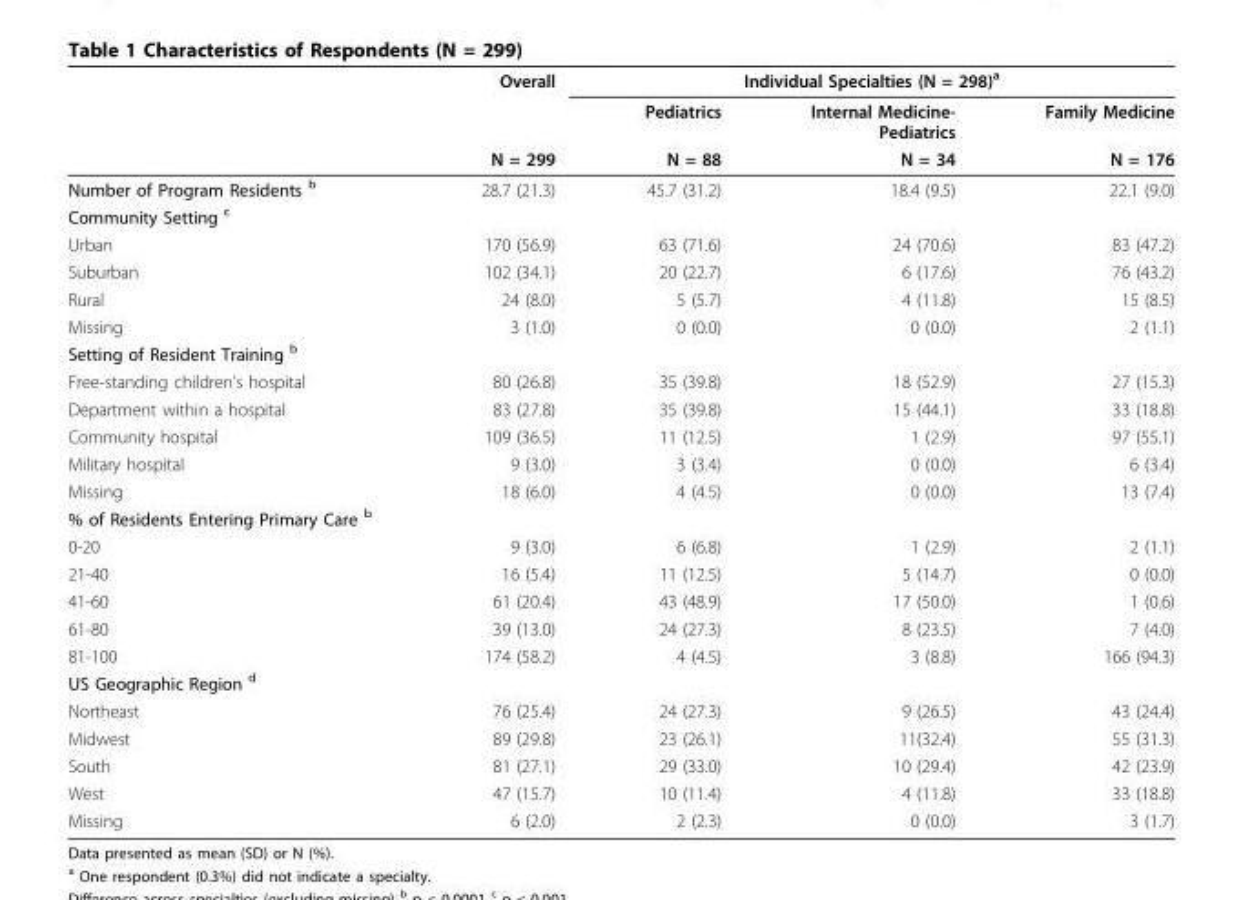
<table><thead><tr><td rowspan="3"></td><td rowspan="3">Overall N = 299</td><td colspan="3">Individual Specialties (N = 298)<sup>a</sup></td></tr><tr><td rowspan="2">Pediatrics N = 88</td><td rowspan="2">Internal Medicine- Pediatrics N = 34</td><td rowspan="2">Family Medicine N = 176</td></tr><tr></tr></thead><tbody><tr><td>Number of Program Residents <sup>b</sup></td><td>28.7 (21.3)</td><td>45.7 (31.2)</td><td>18.4 (9.5)</td><td>22.1 (9.0)</td></tr><tr><td colspan="5">Community Setting <sup>c</sup></td></tr><tr><td>Urban</td><td>170 (56.9)</td><td>63 (71.6)</td><td>24 (70.6)</td><td>83 (47.2)</td></tr><tr><td>Suburban</td><td>102 (34.1)</td><td>20 (22.7)</td><td>6 (17.6)</td><td>76 (43.2)</td></tr><tr><td>Rural</td><td>24 (8.0)</td><td>5 (5.7)</td><td>4 (11.8)</td><td>15 (8.5)</td></tr><tr><td>Missing</td><td>3 (1.0)</td><td>0 (0.0)</td><td>0 (0.0)</td><td>2 (1.1)</td></tr><tr><td colspan="5">Setting of Resident Training <sup>b</sup></td></tr><tr><td>Free-standing children’s hospital</td><td>80 (26.8)</td><td>35 (39.8)</td><td>18 (52.9)</td><td>27 (15.3)</td></tr><tr><td>Department within a hospital</td><td>83 (27.8)</td><td>35 (39.8)</td><td>15 (44.1)</td><td>33 (18.8)</td></tr><tr><td>Community hospital</td><td>109 (36.5)</td><td>11 (12.5)</td><td>1 (2.9)</td><td>97 (55.1)</td></tr><tr><td>Military hospital</td><td>9 (3.0)</td><td>3 (3.4)</td><td>0 (0.0)</td><td>6 (3.4)</td></tr><tr><td>Missing</td><td>18 (6.0)</td><td>4 (4.5)</td><td>0 (0.0)</td><td>13 (7.4)</td></tr><tr><td colspan="5">% of Residents Entering Primary Care <sup>b</sup></td></tr><tr><td>0-20</td><td>9 (3.0)</td><td>6 (6.8)</td><td>1 (2.9)</td><td>2 (1.1)</td></tr><tr><td>21-40</td><td>16 (5.4)</td><td>11 (12.5)</td><td>5 (14.7)</td><td>0 (0.0)</td></tr><tr><td>41-60</td><td>61 (20.4)</td><td>43 (48.9)</td><td>17 (50.0)</td><td>1 (0.6)</td></tr><tr><td>61-80</td><td>39 (13.0)</td><td>24 (27.3)</td><td>8 (23.5)</td><td>7 (4.0)</td></tr><tr><td>81-100</td><td>174 (58.2)</td><td>4 (4.5)</td><td>3 (8.8)</td><td>166 (94.3)</td></tr><tr><td colspan="5">US Geographic Region <sup>d</sup></td></tr><tr><td>Northeast</td><td>76 (25.4)</td><td>24 (27.3)</td><td>9 (26.5)</td><td>43 (24.4)</td></tr><tr><td>Midwest</td><td>89 (29.8)</td><td>23 (26.1)</td><td>11(32.4)</td><td>55 (31.3)</td></tr><tr><td>South</td><td>81 (27.1)</td><td>29 (33.0)</td><td>10 (29.4)</td><td>42 (23.9)</td></tr><tr><td>West</td><td>47 (15.7)</td><td>10 (11.4)</td><td>4 (11.8)</td><td>33 (18.8)</td></tr><tr><td>Missing</td><td>6 (2.0)</td><td>2 (2.3)</td><td>0 (0.0)</td><td>3 (1.7)</td></tr></tbody></table>